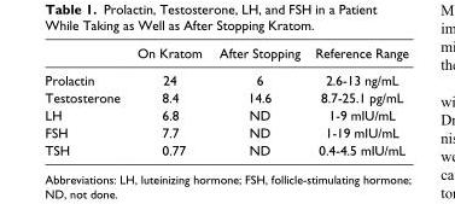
<table><thead><tr><td></td><td>On Kratom</td><td>After Stopping</td><td>Reference Range</td></tr></thead><tbody><tr><td>Prolactin</td><td>24</td><td>6</td><td>2.6-13 ng/mL</td></tr><tr><td>Testosterone</td><td>8.4</td><td>14.6</td><td>8.7-25.1 pg/mL</td></tr><tr><td>LH</td><td>6.8</td><td>ND</td><td>1-9 mIU/mL</td></tr><tr><td>FSH</td><td>7.7</td><td>ND</td><td>1-19 mIU/mL</td></tr><tr><td>TSH</td><td>0.77</td><td>ND</td><td>0.4-4.5 mIU/mL</td></tr></tbody></table>